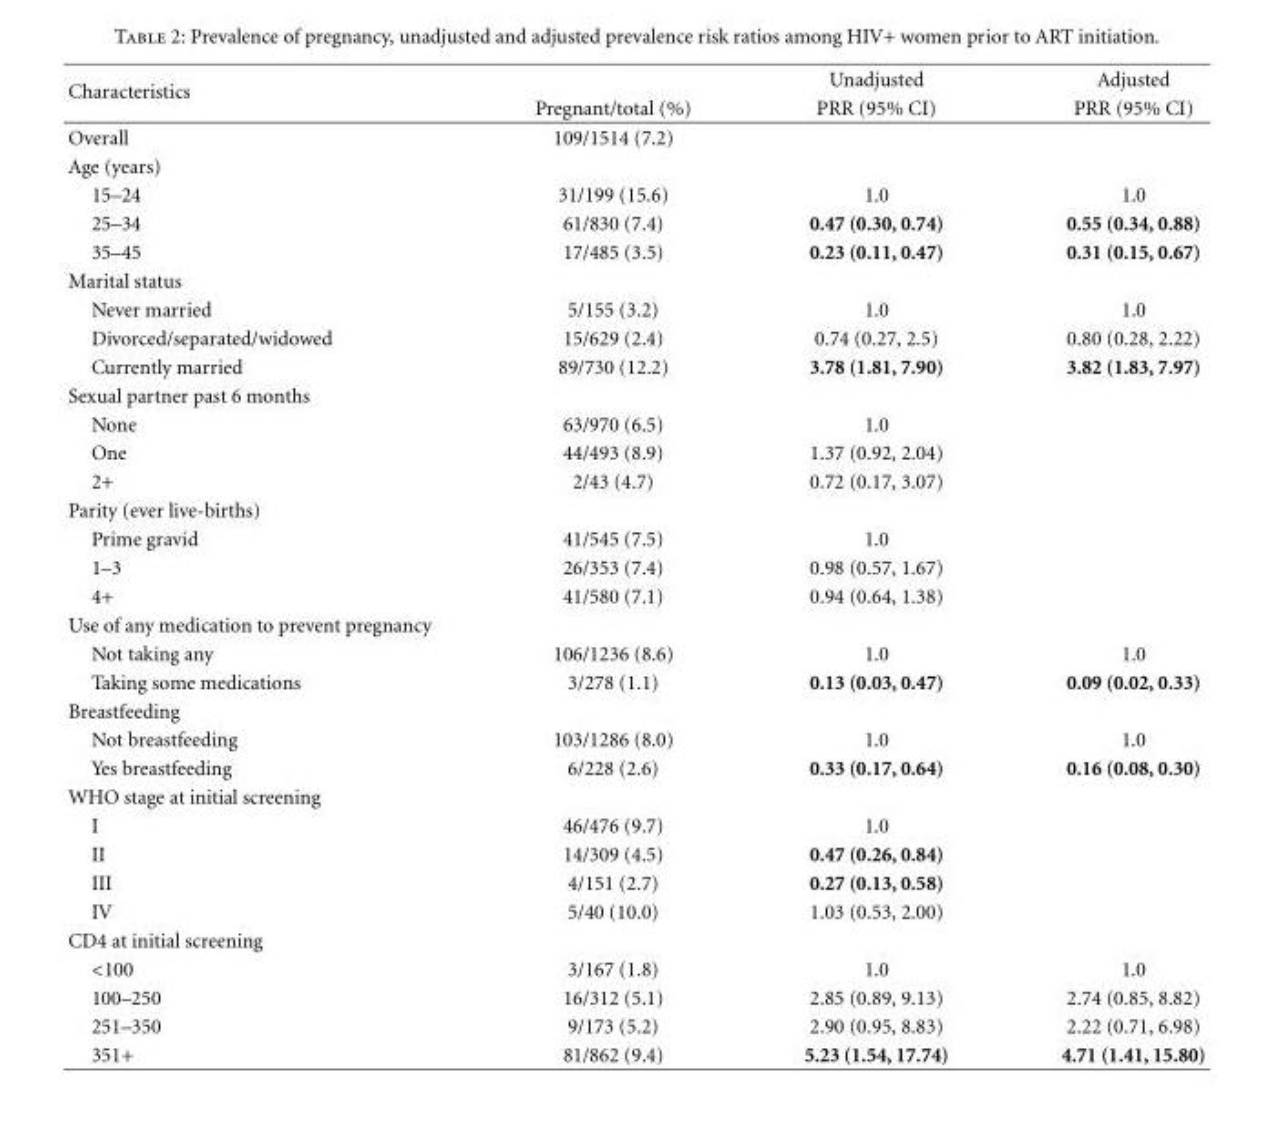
<table><thead><tr><td rowspan="2">Characteristics</td><td rowspan="2">Pregnant/total (%)</td><td rowspan="2">Unadjusted PRR (95% CI)</td><td rowspan="2">Adjusted PRR (95% CI)</td></tr><tr></tr></thead><tbody><tr><td>Overall</td><td>109/1514 (7.2)</td><td></td><td></td></tr><tr><td colspan="4">Age (years)</td></tr><tr><td>15–24</td><td>31/199 (15.6)</td><td>1.0</td><td>1.0</td></tr><tr><td>25–34</td><td>61/830 (7.4)</td><td>0.47 (0.30, 0.74)</td><td>0.55 (0.34, 0.88)</td></tr><tr><td>35–45</td><td>17/485 (3.5)</td><td>0.23 (0.11, 0.47)</td><td>0.31 (0.15, 0.67)</td></tr><tr><td colspan="4">Marital status</td></tr><tr><td>Never married</td><td>5/155 (3.2)</td><td>1.0</td><td>1.0</td></tr><tr><td>Divorced/separated/widowed</td><td>15/629 (2.4)</td><td>0.74 (0.27, 2.5)</td><td>0.80 (0.28, 2.22)</td></tr><tr><td>Currently married</td><td>89/730 (12.2)</td><td>3.78 (1.81, 7.90)</td><td>3.82 (1.83, 7.97)</td></tr><tr><td colspan="4">Sexual partner past 6 months</td></tr><tr><td>None</td><td>63/970 (6.5)</td><td>1.0</td><td></td></tr><tr><td>One</td><td>44/493 (8.9)</td><td>1.37 (0.92, 2.04)</td><td></td></tr><tr><td>2+</td><td>2/43 (4.7)</td><td>0.72 (0.17, 3.07)</td><td></td></tr><tr><td colspan="4">Parity (ever live-births)</td></tr><tr><td>Prime gravid</td><td>41/545 (7.5)</td><td>1.0</td><td></td></tr><tr><td>1–3</td><td>26/353 (7.4)</td><td>0.98 (0.57, 1.67)</td><td></td></tr><tr><td>4+</td><td>41/580 (7.1)</td><td>0.94 (0.64, 1.38)</td><td></td></tr><tr><td colspan="4">Use of any medication to prevent pregnancy</td></tr><tr><td>Not taking any</td><td>106/1236 (8.6)</td><td>1.0</td><td>1.0</td></tr><tr><td>Taking some medications</td><td>3/278 (1.1)</td><td>0.13 (0.03, 0.47)</td><td>0.09 (0.02, 0.33)</td></tr><tr><td colspan="4">Breastfeeding</td></tr><tr><td>Not breastfeeding</td><td>103/1286 (8.0)</td><td>1.0</td><td>1.0</td></tr><tr><td>Yes breastfeeding</td><td>6/228 (2.6)</td><td>0.33 (0.17, 0.64)</td><td>0.16 (0.08, 0.30)</td></tr><tr><td colspan="4">WHO stage at initial screening</td></tr><tr><td>I</td><td>46/476 (9.7)</td><td>1.0</td><td></td></tr><tr><td>II</td><td>14/309 (4.5)</td><td>0.47 (0.26, 0.84)</td><td></td></tr><tr><td>III</td><td>4/151 (2.7)</td><td>0.27 (0.13, 0.58)</td><td></td></tr><tr><td>IV</td><td>5/40 (10.0)</td><td>1.03 (0.53, 2.00)</td><td></td></tr><tr><td colspan="4">CD4 at initial screening</td></tr><tr><td>&lt;100</td><td>3/167 (1.8)</td><td>1.0</td><td>1.0</td></tr><tr><td>100–250</td><td>16/312 (5.1)</td><td>2.85 (0.89, 9.13)</td><td>2.74 (0.85, 8.82)</td></tr><tr><td>251–350</td><td>9/173 (5.2)</td><td>2.90 (0.95, 8.83)</td><td>2.22 (0.71, 6.98)</td></tr><tr><td>351+</td><td>81/862 (9.4)</td><td>5.23 (1.54, 17.74)</td><td>4.71 (1.41, 15.80)</td></tr></tbody></table>